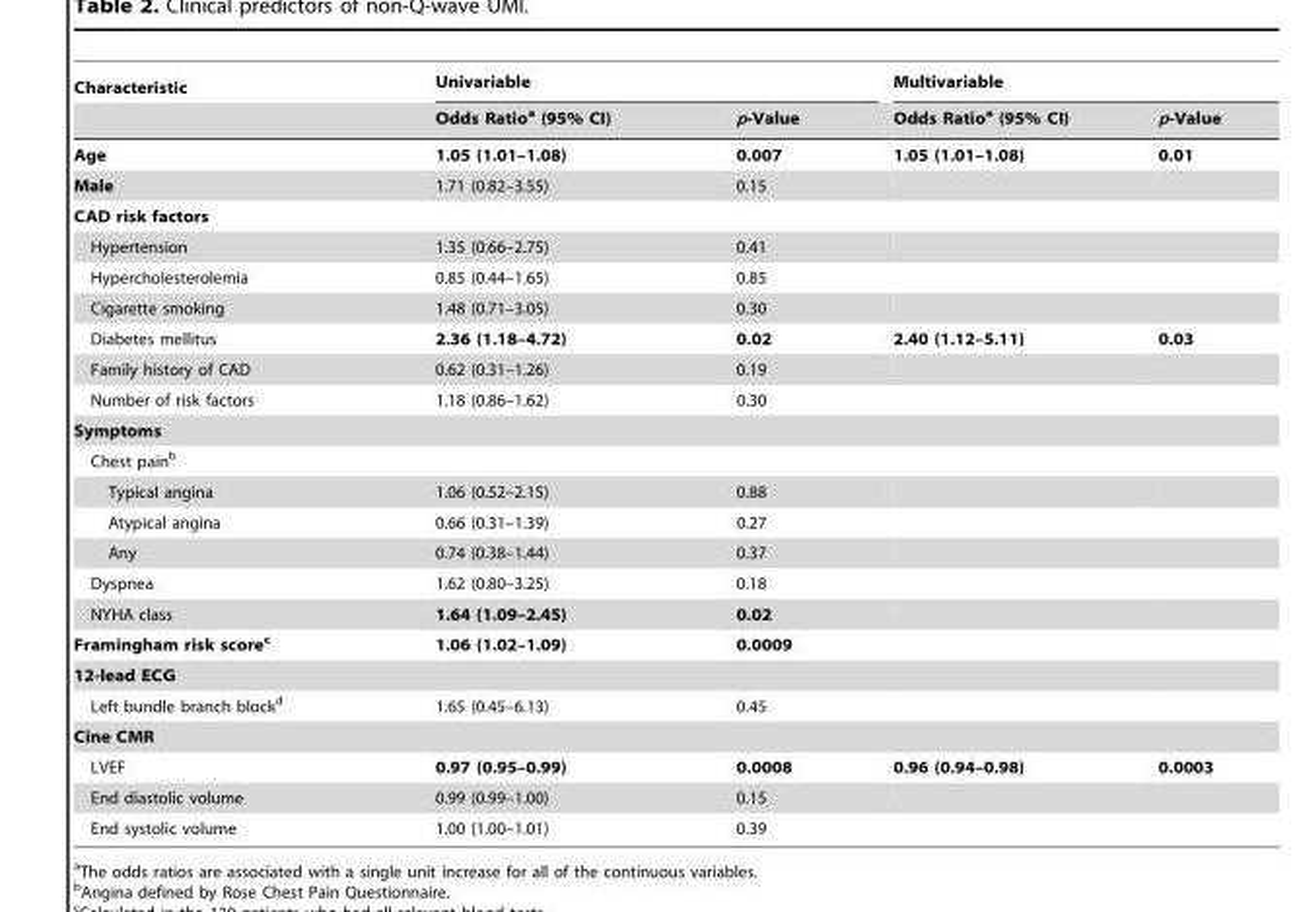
<table><thead><tr><td rowspan="2">Characteristic</td><td colspan="2">Univariable</td><td colspan="2">Multivariable</td></tr><tr><td>Odds Ratio<sup>a</sup> (95% CI)</td><td>p-Value</td><td>Odds Ratio<sup>a</sup> (95% CI)</td><td>p-Value</td></tr></thead><tbody><tr><td>Age</td><td>1.05 (1.01–1.08)</td><td>0.007</td><td>1.05 (1.01–1.08)</td><td>0.01</td></tr><tr><td>Male</td><td>1.71 (0.82–3.55)</td><td>0.15</td><td></td><td></td></tr><tr><td colspan="5">CAD risk factors</td></tr><tr><td>Hypertension</td><td>1.35 (0.66–2.75)</td><td>0.41</td><td></td><td></td></tr><tr><td>Hypercholesterolemia</td><td>0.85 (0.44–1.65)</td><td>0.85</td><td></td><td></td></tr><tr><td>Cigarette smoking</td><td>1.48 (0.71–3.05)</td><td>0.30</td><td></td><td></td></tr><tr><td>Diabetes mellitus</td><td>2.36 (1.18–4.72)</td><td>0.02</td><td>2.40 (1.12–5.11)</td><td>0.03</td></tr><tr><td>Family history of CAD</td><td>0.62 (0.31–1.26)</td><td>0.19</td><td></td><td></td></tr><tr><td>Number of risk factors</td><td>1.18 (0.86–1.62)</td><td>0.30</td><td></td><td></td></tr><tr><td colspan="5">Symptoms</td></tr><tr><td colspan="5">Chest pain<sup>b</sup></td></tr><tr><td>Typical angina</td><td>1.06 (0.52–2.15)</td><td>0.88</td><td></td><td></td></tr><tr><td>Atypical angina</td><td>0.66 (0.31–1.39)</td><td>0.27</td><td></td><td></td></tr><tr><td>Any</td><td>0.74 (0.38–1.44)</td><td>0.37</td><td></td><td></td></tr><tr><td>Dyspnea</td><td>1.62 (0.80–3.25)</td><td>0.18</td><td></td><td></td></tr><tr><td>NYHA class</td><td>1.64 (1.09–2.45)</td><td>0.02</td><td></td><td></td></tr><tr><td>Framingham risk scorec</td><td>1.06 (1.02–1.09)</td><td>0.0009</td><td></td><td></td></tr><tr><td colspan="5">12-lead ECG</td></tr><tr><td>Left bundle branch block<sup>d</sup></td><td>1.65 (0.45–6.13)</td><td>0.45</td><td></td><td></td></tr><tr><td colspan="5">Cine CMR</td></tr><tr><td>LVEF</td><td>0.97 (0.95–0.99)</td><td>0.0008</td><td>0.96 (0.94–0.98)</td><td>0.0003</td></tr><tr><td>End diastolic volume</td><td>0.99 (0.99–1.00)</td><td>0.15</td><td></td><td></td></tr><tr><td>End systolic volume</td><td>1.00 (1.00–1.01)</td><td>0.39</td><td></td><td></td></tr></tbody></table>